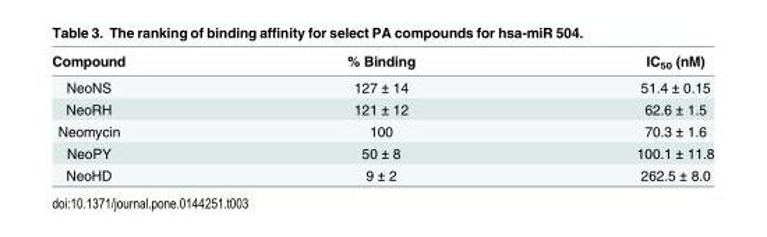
<table><thead><tr><td>Compound</td><td>% Binding</td><td>IC<sub>50</sub> (nM)</td></tr></thead><tbody><tr><td>NeoNS</td><td>127 ± 14</td><td>51.4 ± 0.15</td></tr><tr><td>NeoRH</td><td>121 ± 12</td><td>62.6 ± 1.5</td></tr><tr><td>Neomycin</td><td>100</td><td>70.3 ± 1.6</td></tr><tr><td>NeoPY</td><td>50 ± 8</td><td>100.1 ± 11.8</td></tr><tr><td>NeoHD</td><td>9 ± 2</td><td>262.5 ± 8.0</td></tr></tbody></table>